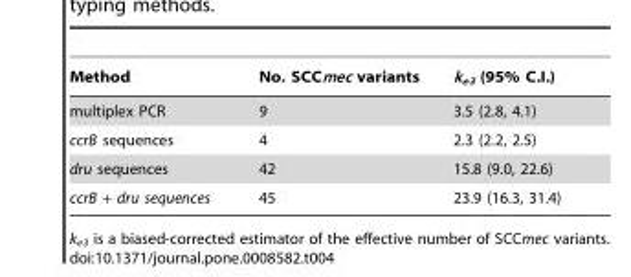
<table><thead><tr><td>Method</td><td>No. SCCmec variants</td><td>k<sub>e3</sub> (95% C.I.)</td></tr></thead><tbody><tr><td>multiplex PCR</td><td>9</td><td>3.5 (2.8, 4.1)</td></tr><tr><td>ccrB sequences</td><td>4</td><td>2.3 (2.2, 2.5)</td></tr><tr><td>dru sequences</td><td>42</td><td>15.8 (9.0, 22.6)</td></tr><tr><td>ccrB + dru sequences</td><td>45</td><td>23.9 (16.3, 31.4)</td></tr></tbody></table>